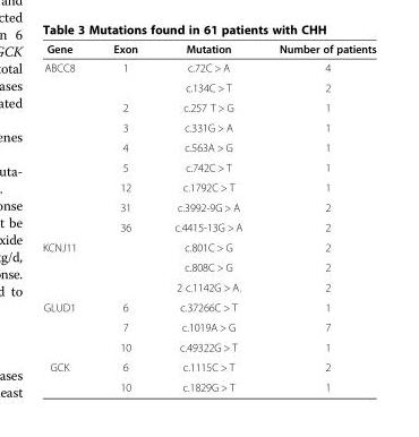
<table><thead><tr><td>Gene</td><td>Exon</td><td>Mutation</td><td>Number of patients</td></tr></thead><tbody><tr><td rowspan="9">ABCC8</td><td>1</td><td>c.72C &gt; A</td><td>4</td></tr><tr><td></td><td>c.134C &gt; T</td><td>2</td></tr><tr><td>2</td><td>c.257 T &gt; G</td><td>1</td></tr><tr><td>3</td><td>c.331G &gt; A</td><td>1</td></tr><tr><td>4</td><td>c.563A &gt; G</td><td>1</td></tr><tr><td>5</td><td>c.742C &gt; T</td><td>1</td></tr><tr><td>12</td><td>c.1792C &gt; T</td><td>1</td></tr><tr><td>31</td><td>c.3992-9G &gt; A</td><td>2</td></tr><tr><td>36</td><td>c.4415-13G &gt; A</td><td>2</td></tr><tr><td rowspan="3">KCNJ11</td><td></td><td>c.801C &gt; G</td><td>2</td></tr><tr><td></td><td>c.808C &gt; G</td><td>2</td></tr><tr><td></td><td>2 c.1142G &gt; A.</td><td>2</td></tr><tr><td rowspan="3">GLUD1</td><td>6</td><td>c.37266C &gt; T</td><td>1</td></tr><tr><td>7</td><td>c.1019A &gt; G</td><td>7</td></tr><tr><td>10</td><td>c.49322G &gt; T</td><td>1</td></tr><tr><td rowspan="2">GCK</td><td>6</td><td>c.1115C &gt; T</td><td>2</td></tr><tr><td>10</td><td>c.1829G &gt; T</td><td>1</td></tr></tbody></table>